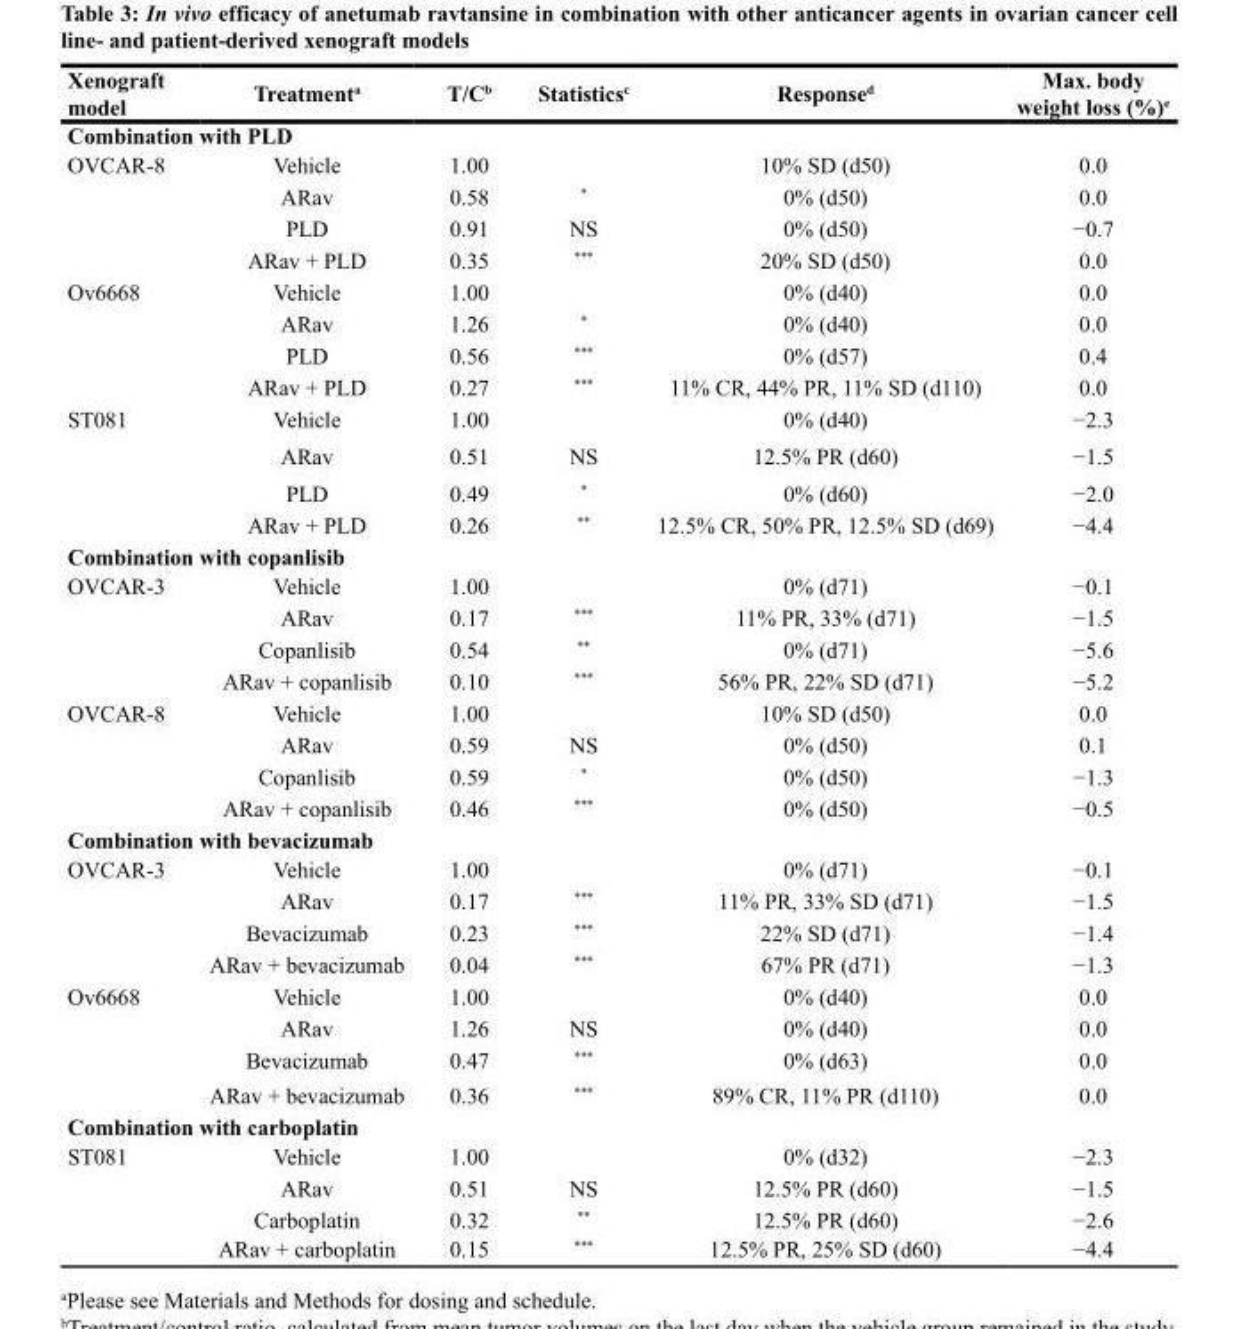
<table><thead><tr><td>Xenograft model</td><td>Treatment<sup>a</sup></td><td>T/C<sup>b</sup></td><td>Statistics<sup>c</sup></td><td>Response<sup>d</sup></td><td>Max. body weight loss (%)<sup>e</sup></td></tr></thead><tbody><tr><td colspan="6">Combination with PLD</td></tr><tr><td rowspan="4">OVCAR-8</td><td>Vehicle</td><td>1.00</td><td></td><td>10% SD (d50)</td><td>0.0</td></tr><tr><td>ARav</td><td>0.58</td><td>*</td><td>0% (d50)</td><td>0.0</td></tr><tr><td>PLD</td><td>0.91</td><td>NS</td><td>0% (d50)</td><td>−0.7</td></tr><tr><td>ARav + PLD</td><td>0.35</td><td>***</td><td>20% SD (d50)</td><td>0.0</td></tr><tr><td rowspan="4">Ov6668</td><td>Vehicle</td><td>1.00</td><td></td><td>0% (d40)</td><td>0.0</td></tr><tr><td>ARav</td><td>1.26</td><td>*</td><td>0% (d40)</td><td>0.0</td></tr><tr><td>PLD</td><td>0.56</td><td>***</td><td>0% (d57)</td><td>0.4</td></tr><tr><td>ARav + PLD</td><td>0.27</td><td>***</td><td>11% CR, 44% PR, 11% SD (d110)</td><td>0.0</td></tr><tr><td rowspan="4">ST081</td><td>Vehicle</td><td>1.00</td><td></td><td>0% (d40)</td><td>−2.3</td></tr><tr><td>ARav</td><td>0.51</td><td>NS</td><td>12.5% PR (d60)</td><td>−1.5</td></tr><tr><td>PLD</td><td>0.49</td><td>*</td><td>0% (d60)</td><td>−2.0</td></tr><tr><td>ARav + PLD</td><td>0.26</td><td>**</td><td>12.5% CR, 50% PR, 12.5% SD (d69)</td><td>−4.4</td></tr><tr><td colspan="6">Combination with copanlisib</td></tr><tr><td rowspan="4">OVCAR-3</td><td>Vehicle</td><td>1.00</td><td></td><td>0% (d71)</td><td>−0.1</td></tr><tr><td>ARav</td><td>0.17</td><td>***</td><td>11% PR, 33% (d71)</td><td>−1.5</td></tr><tr><td>Copanlisib</td><td>0.54</td><td>**</td><td>0% (d71)</td><td>−5.6</td></tr><tr><td>ARav + copanlisib</td><td>0.10</td><td>***</td><td>56% PR, 22% SD (d71)</td><td>−5.2</td></tr><tr><td rowspan="4">OVCAR-8</td><td>Vehicle</td><td>1.00</td><td></td><td>10% SD (d50)</td><td>0.0</td></tr><tr><td>ARav</td><td>0.59</td><td>NS</td><td>0% (d50)</td><td>0.1</td></tr><tr><td>Copanlisib</td><td>0.59</td><td>*</td><td>0% (d50)</td><td>−1.3</td></tr><tr><td>ARav + copanlisib</td><td>0.46</td><td>***</td><td>0% (d50)</td><td>−0.5</td></tr><tr><td colspan="6">Combination with bevacizumab</td></tr><tr><td rowspan="4">OVCAR-3</td><td>Vehicle</td><td>1.00</td><td></td><td>0% (d71)</td><td>−0.1</td></tr><tr><td>ARav</td><td>0.17</td><td>***</td><td>11% PR, 33% SD (d71)</td><td>−1.5</td></tr><tr><td>Bevacizumab</td><td>0.23</td><td>***</td><td>22% SD (d71)</td><td>−1.4</td></tr><tr><td>ARav + bevacizumab</td><td>0.04</td><td>***</td><td>67% PR (d71)</td><td>−1.3</td></tr><tr><td rowspan="4">Ov6668</td><td>Vehicle</td><td>1.00</td><td></td><td>0% (d40)</td><td>0.0</td></tr><tr><td>ARav</td><td>1.26</td><td>NS</td><td>0% (d40)</td><td>0.0</td></tr><tr><td>Bevacizumab</td><td>0.47</td><td>***</td><td>0% (d63)</td><td>0.0</td></tr><tr><td>ARav + bevacizumab</td><td>0.36</td><td>***</td><td>89% CR, 11% PR (d110)</td><td>0.0</td></tr><tr><td colspan="6">Combination with carboplatin</td></tr><tr><td rowspan="4">ST081</td><td>Vehicle</td><td>1.00</td><td></td><td>0% (d32)</td><td>−2.3</td></tr><tr><td>ARav</td><td>0.51</td><td>NS</td><td>12.5% PR (d60)</td><td>−1.5</td></tr><tr><td>Carboplatin</td><td>0.32</td><td>**</td><td>12.5% PR (d60)</td><td>−2.6</td></tr><tr><td>ARav + carboplatin</td><td>0.15</td><td>***</td><td>12.5% PR, 25% SD (d60)</td><td>−4.4</td></tr></tbody></table>